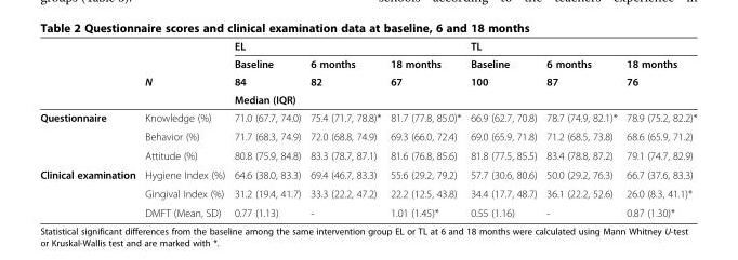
<table><thead><tr><td rowspan="4"></td><td rowspan="4">N</td><td colspan="3">EL</td><td colspan="3">TL</td></tr><tr><td rowspan="2">Baseline 84</td><td rowspan="2">6 months 82</td><td rowspan="2">18 months 67</td><td rowspan="2">Baseline 100</td><td rowspan="2">6 months 87</td><td rowspan="2">18 months 76</td></tr><tr></tr><tr><td colspan="6">Median (IQR)</td></tr></thead><tbody><tr><td rowspan="3">Questionnaire</td><td>Knowledge (%)</td><td>71.0 (67.7, 74.0)</td><td>75.4 (71.7, 78.8)*</td><td>81.7 (77.8, 85.0)*</td><td>66.9 (62.7, 70.8)</td><td>78.7 (74.9, 82.1)*</td><td>78.9 (75.2, 82.2)*</td></tr><tr><td>Behavior (%)</td><td>71.7 (68.3, 74.9)</td><td>72.0 (68.8, 74.9)</td><td>69.3 (66.0, 72.4)</td><td>69.0 (65.9, 71.8)</td><td>71.2 (68.5, 73.8)</td><td>68.6 (65.9, 71.2)</td></tr><tr><td>Attitude (%)</td><td>80.8 (75.9, 84.8)</td><td>83.3 (78.7, 87.1)</td><td>81.6 (76.8, 85.6)</td><td>81.8 (77.5, 85.5)</td><td>83.4 (78.8, 87.2)</td><td>79.1 (74.7, 82.9)</td></tr><tr><td rowspan="3">Clinical examination</td><td>Hygiene Index (%)</td><td>64.6 (38.0, 83.3)</td><td>69.4 (46.7, 83.3)</td><td>55.6 (29.2, 79.2)</td><td>57.7 (30.6, 80.6)</td><td>50.0 (29.2, 76.3)</td><td>66.7 (37.6, 83.3)</td></tr><tr><td>Gingival Index (%)</td><td>31.2 (19.4, 41.7)</td><td>33.3 (22.2, 47.2)</td><td>22.2 (12.5, 43.8)</td><td>34.4 (17.7, 48.7)</td><td>36.1 (22.2, 52.6)</td><td>26.0 (8.3, 41.1)*</td></tr><tr><td>DMFT (Mean, SD)</td><td>0.77 (1.13)</td><td>-</td><td>1.01 (1.45)*</td><td>0.55 (1.16)</td><td>-</td><td>0.87 (1.30)*</td></tr></tbody></table>